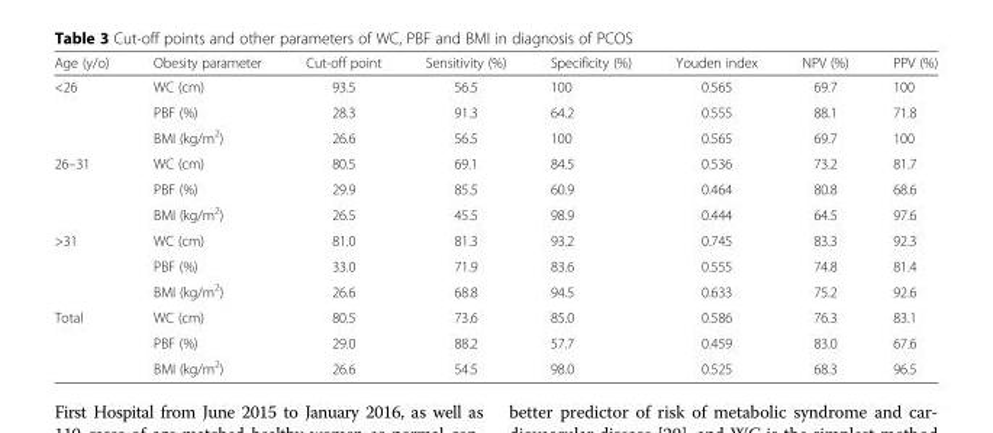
<table><thead><tr><td>Age (y/o)</td><td>Obesity parameter</td><td>Cut-off point</td><td>Sensitivity (%)</td><td>Specificity (%)</td><td>Youden index</td><td>NPV (%)</td><td>PPV (%)</td></tr></thead><tbody><tr><td rowspan="3">&lt;26</td><td>WC (cm)</td><td>93.5</td><td>56.5</td><td>100</td><td>0.565</td><td>69.7</td><td>100</td></tr><tr><td>PBF (%)</td><td>28.3</td><td>91.3</td><td>64.2</td><td>0.555</td><td>88.1</td><td>71.8</td></tr><tr><td>BMI (kg/m<sup>2</sup>)</td><td>26.6</td><td>56.5</td><td>100</td><td>0.565</td><td>69.7</td><td>100</td></tr><tr><td rowspan="3">26–31</td><td>WC (cm)</td><td>80.5</td><td>69.1</td><td>84.5</td><td>0.536</td><td>73.2</td><td>81.7</td></tr><tr><td>PBF (%)</td><td>29.9</td><td>85.5</td><td>60.9</td><td>0.464</td><td>80.8</td><td>68.6</td></tr><tr><td>BMI (kg/m<sup>2</sup>)</td><td>26.5</td><td>45.5</td><td>98.9</td><td>0.444</td><td>64.5</td><td>97.6</td></tr><tr><td rowspan="3">&gt;31</td><td>WC (cm)</td><td>81.0</td><td>81.3</td><td>93.2</td><td>0.745</td><td>83.3</td><td>92.3</td></tr><tr><td>PBF (%)</td><td>33.0</td><td>71.9</td><td>83.6</td><td>0.555</td><td>74.8</td><td>81.4</td></tr><tr><td>BMI (kg/m<sup>2</sup>)</td><td>26.6</td><td>68.8</td><td>94.5</td><td>0.633</td><td>75.2</td><td>92.6</td></tr><tr><td rowspan="3">Total</td><td>WC (cm)</td><td>80.5</td><td>73.6</td><td>85.0</td><td>0.586</td><td>76.3</td><td>83.1</td></tr><tr><td>PBF (%)</td><td>29.0</td><td>88.2</td><td>57.7</td><td>0.459</td><td>83.0</td><td>67.6</td></tr><tr><td>BMI (kg/m<sup>2</sup>)</td><td>26.6</td><td>54.5</td><td>98.0</td><td>0.525</td><td>68.3</td><td>96.5</td></tr></tbody></table>